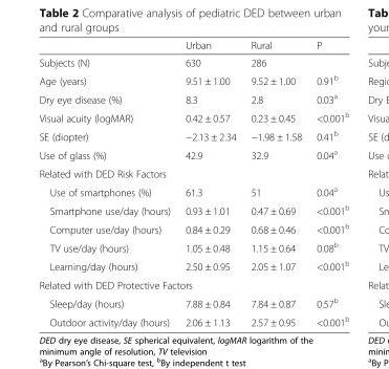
<table><thead><tr><td></td><td>Urban</td><td>Rural</td><td>P</td></tr></thead><tbody><tr><td>Subjects (N)</td><td>630</td><td>286</td><td></td></tr><tr><td>Age (years)</td><td>9.51 ± 1.00</td><td>9.52 ± 1.00</td><td>0.91<sup>b</sup></td></tr><tr><td>Dry eye disease (%)</td><td>8.3</td><td>2.8</td><td>0.03<sup>a</sup></td></tr><tr><td>Visual acuity (logMAR)</td><td>0.42 ± 0.57</td><td>0.23 ± 0.45</td><td>&lt;0.001<sup>b</sup></td></tr><tr><td>SE (diopter)</td><td>−2.13 ± 2.34</td><td>−1.98 ± 1.58</td><td>0.41<sup>b</sup></td></tr><tr><td>Use of glass (%)</td><td>42.9</td><td>32.9</td><td>0.04<sup>a</sup></td></tr><tr><td colspan="4">Related with DED Risk Factors</td></tr><tr><td>Use of smartphones (%)</td><td>61.3</td><td>51</td><td>0.04<sup>a</sup></td></tr><tr><td>Smartphone use/day (hours)</td><td>0.93 ± 1.01</td><td>0.47 ± 0.69</td><td>&lt;0.001<sup>b</sup></td></tr><tr><td>Computer use/day (hours)</td><td>0.84 ± 0.29</td><td>0.68 ± 0.46</td><td>&lt;0.001<sup>b</sup></td></tr><tr><td>TV use/day (hours)</td><td>1.05 ± 0.48</td><td>1.15 ± 0.64</td><td>0.08<sup>b</sup></td></tr><tr><td>Learning/day (hours)</td><td>2.50 ± 0.95</td><td>2.05 ± 1.07</td><td>&lt;0.001<sup>b</sup></td></tr><tr><td colspan="4">Related with DED Protective Factors</td></tr><tr><td>Sleep/day (hours)</td><td>7.88 ± 0.84</td><td>7.84 ± 0.87</td><td>0.57<sup>b</sup></td></tr><tr><td>Outdoor activity/day (hours)</td><td>2.06 ± 1.13</td><td>2.57 ± 0.95</td><td>&lt;0.001<sup>b</sup></td></tr></tbody></table>